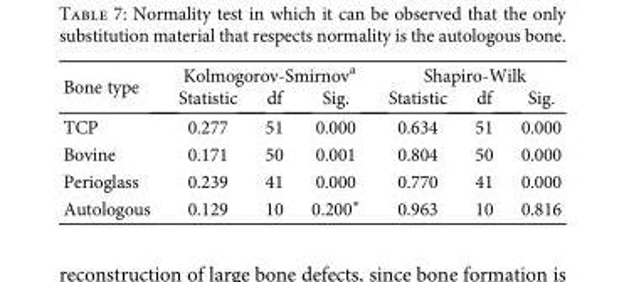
<table><thead><tr><td rowspan="2">Bone type</td><td colspan="3">Kolmogorov-Smirnov<sup>a</sup></td><td colspan="3">Shapiro-Wilk</td></tr><tr><td>Statistic</td><td>df</td><td>Sig.</td><td>Statistic</td><td>df</td><td>Sig.</td></tr></thead><tbody><tr><td>TCP</td><td>0.277</td><td>51</td><td>0.000</td><td>0.634</td><td>51</td><td>0.000</td></tr><tr><td>Bovine</td><td>0.171</td><td>50</td><td>0.001</td><td>0.804</td><td>50</td><td>0.000</td></tr><tr><td>Perioglass</td><td>0.239</td><td>41</td><td>0.000</td><td>0.770</td><td>41</td><td>0.000</td></tr><tr><td>Autologous</td><td>0.129</td><td>10</td><td>0.200∗</td><td>0.963</td><td>10</td><td>0.816</td></tr></tbody></table>